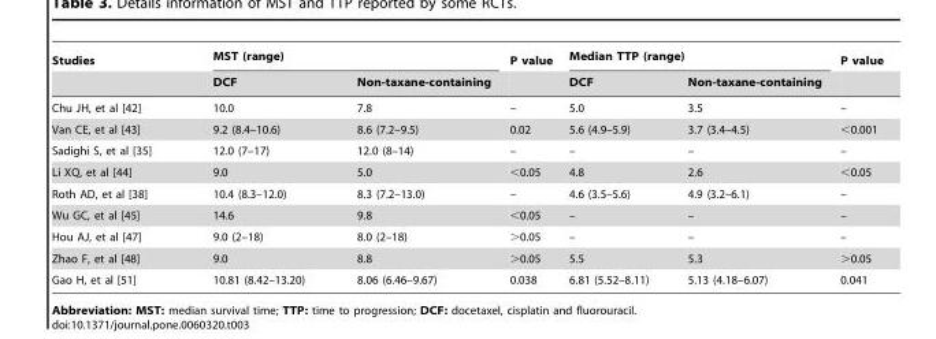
<table><thead><tr><td rowspan="2">Studies</td><td colspan="2">MST (range)</td><td rowspan="2">P value</td><td colspan="2">Median TTP (range)</td><td rowspan="2">P value</td></tr><tr><td>DCF</td><td>Non-taxane-containing</td><td>DCF</td><td>Non-taxane-containing</td></tr></thead><tbody><tr><td>Chu JH, et al [42]</td><td>10.0</td><td>7.8</td><td>–</td><td>5.0</td><td>3.5</td><td>–</td></tr><tr><td>Van CE, et al [43]</td><td>9.2 (8.4–10.6)</td><td>8.6 (7.2–9.5)</td><td>0.02</td><td>5.6 (4.9–5.9)</td><td>3.7 (3.4–4.5)</td><td>&lt;0.001</td></tr><tr><td>Sadighi S, et al [35]</td><td>12.0 (7–17)</td><td>12.0 (8–14)</td><td>–</td><td>–</td><td>–</td><td>–</td></tr><tr><td>Li XQ, et al [44]</td><td>9.0</td><td>5.0</td><td>&lt;0.05</td><td>4.8</td><td>2.6</td><td>&lt;0.05</td></tr><tr><td>Roth AD, et al [38]</td><td>10.4 (8.3–12.0)</td><td>8.3 (7.2–13.0)</td><td>–</td><td>4.6 (3.5–5.6)</td><td>4.9 (3.2–6.1)</td><td>–</td></tr><tr><td>Wu GC, et al [45]</td><td>14.6</td><td>9.8</td><td>&lt;0.05</td><td>–</td><td>–</td><td>–</td></tr><tr><td>Hou AJ, et al [47]</td><td>9.0 (2–18)</td><td>8.0 (2–18)</td><td>&gt;0.05</td><td>–</td><td>–</td><td>–</td></tr><tr><td>Zhao F, et al [48]</td><td>9.0</td><td>8.8</td><td>&gt;0.05</td><td>5.5</td><td>5.3</td><td>&gt;0.05</td></tr><tr><td>Gao H, et al [51]</td><td>10.81 (8.42–13.20)</td><td>8.06 (6.46–9.67)</td><td>0.038</td><td>6.81 (5.52–8.11)</td><td>5.13 (4.18–6.07)</td><td>0.041</td></tr></tbody></table>